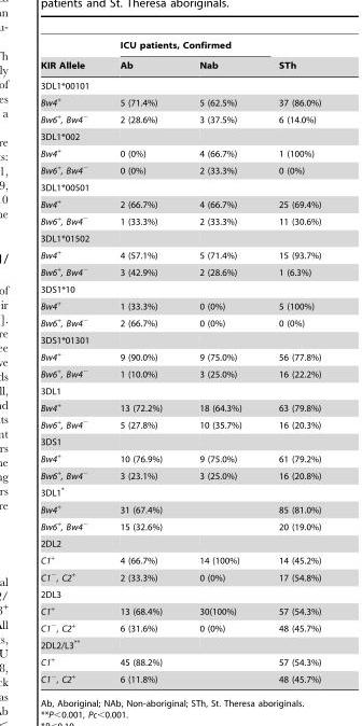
<table><thead><tr><td rowspan="2">KIR Allele</td><td colspan="2">ICU patients, Confirmed</td><td rowspan="2">STh</td></tr><tr><td>Ab</td><td>Nab</td></tr></thead><tbody><tr><td colspan="4">3DL1*00101</td></tr><tr><td>Bw4<sup>+</sup></td><td>5 (71.4%)</td><td>5 (62.5%)</td><td>37 (86.0%)</td></tr><tr><td>Bw6<sup>+</sup>, Bw4<sup>−</sup></td><td>2 (28.6%)</td><td>3 (37.5%)</td><td>6 (14.0%)</td></tr><tr><td colspan="4">3DL1*002</td></tr><tr><td>Bw4<sup>+</sup></td><td>0 (0%)</td><td>4 (66.7%)</td><td>1 (100%)</td></tr><tr><td>Bw6<sup>+</sup>, Bw4<sup>−</sup></td><td>0 (0%)</td><td>2 (33.3%)</td><td>0 (0%)</td></tr><tr><td colspan="4">3DL1*00501</td></tr><tr><td>Bw4<sup>+</sup></td><td>2 (66.7%)</td><td>4 (66.7%)</td><td>25 (69.4%)</td></tr><tr><td>Bw6<sup>+</sup>, Bw4<sup>−</sup></td><td>1 (33.3%)</td><td>2 (33.3%)</td><td>11 (30.6%)</td></tr><tr><td colspan="4">3DL1*01502</td></tr><tr><td>Bw4<sup>+</sup></td><td>4 (57.1%)</td><td>5 (71.4%)</td><td>15 (93.7%)</td></tr><tr><td>Bw6<sup>+</sup>, Bw4<sup>−</sup></td><td>3 (42.9%)</td><td>2 (28.6%)</td><td>1 (6.3%)</td></tr><tr><td colspan="4">3DS1*10</td></tr><tr><td>Bw4<sup>+</sup></td><td>1 (33.3%)</td><td>0 (0%)</td><td>5 (100%)</td></tr><tr><td>Bw6<sup>+</sup>, Bw4<sup>−</sup></td><td>2 (66.7%)</td><td>0 (0%)</td><td>0 (0%)</td></tr><tr><td colspan="4">3DS1*01301</td></tr><tr><td>Bw4<sup>+</sup></td><td>9 (90.0%)</td><td>9 (75.0%)</td><td>56 (77.8%)</td></tr><tr><td>Bw6<sup>+</sup>, Bw4<sup>−</sup></td><td>1 (10.0%)</td><td>3 (25.0%)</td><td>16 (22.2%)</td></tr><tr><td colspan="4">3DL1</td></tr><tr><td>Bw4<sup>+</sup></td><td>13 (72.2%)</td><td>18 (64.3%)</td><td>63 (79.8%)</td></tr><tr><td>Bw6<sup>+</sup>, Bw4<sup>−</sup></td><td>5 (27.8%)</td><td>10 (35.7%)</td><td>16 (20.3%)</td></tr><tr><td colspan="4">3DS1</td></tr><tr><td>Bw4<sup>+</sup></td><td>10 (76.9%)</td><td>9 (75.0%)</td><td>61 (79.2%)</td></tr><tr><td>Bw6<sup>+</sup>, Bw4<sup>−</sup></td><td>3 (23.1%)</td><td>3 (25.0%)</td><td>16 (20.8%)</td></tr><tr><td colspan="4">3DL1*</td></tr><tr><td>Bw4<sup>+</sup></td><td colspan="2">31 (67.4%)</td><td>85 (81.0%)</td></tr><tr><td>Bw6<sup>+</sup>, Bw4<sup>−</sup></td><td colspan="2">15 (32.6%)</td><td>20 (19.0%)</td></tr><tr><td colspan="4">2DL2</td></tr><tr><td>C1<sup>+</sup></td><td>4 (66.7%)</td><td>14 (100%)</td><td>14 (45.2%)</td></tr><tr><td>C1<sup>−</sup>, C2<sup>+</sup></td><td>2 (33.3%)</td><td>0 (0%)</td><td>17 (54.8%)</td></tr><tr><td colspan="4">2DL3</td></tr><tr><td>C1<sup>+</sup></td><td>13 (68.4%)</td><td>30(100%)</td><td>57 (54.3%)</td></tr><tr><td>C1<sup>−</sup>, C2<sup>+</sup></td><td>6 (31.6%)</td><td>0 (0%)</td><td>48 (45.7%)</td></tr><tr><td colspan="4">2DL2/L3**</td></tr><tr><td>C1<sup>+</sup></td><td colspan="2">45 (88.2%)</td><td>57 (54.3%)</td></tr><tr><td>C1<sup>−</sup>, C2<sup>+</sup></td><td colspan="2">6 (11.8%)</td><td>48 (45.7%)</td></tr></tbody></table>